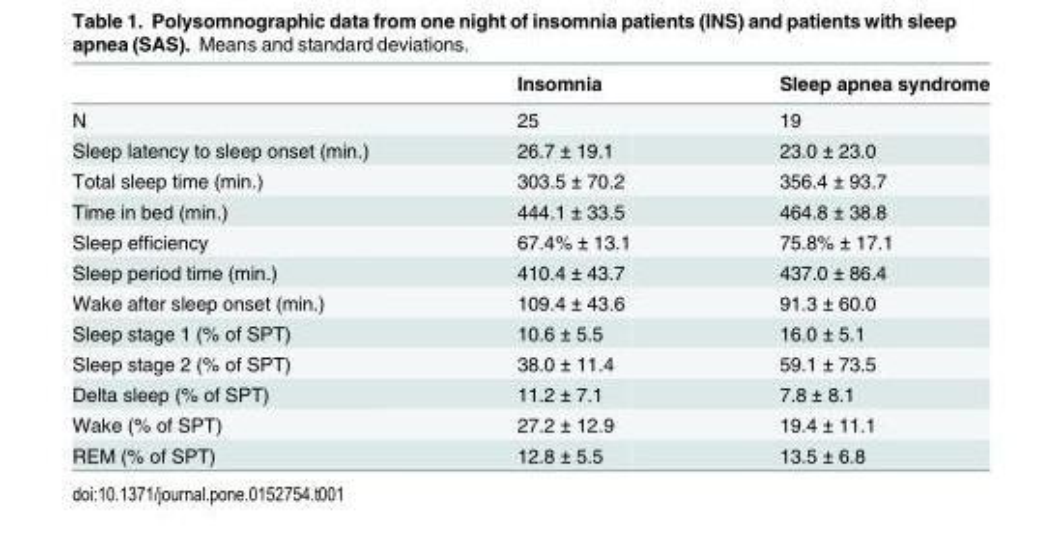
<table><thead><tr><td></td><td>Insomnia</td><td>Sleep apnea syndrome</td></tr></thead><tbody><tr><td>N</td><td>25</td><td>19</td></tr><tr><td>Sleep latency to sleep onset (min.)</td><td>26.7 ± 19.1</td><td>23.0 ± 23.0</td></tr><tr><td>Total sleep time (min.)</td><td>303.5 ± 70.2</td><td>356.4 ± 93.7</td></tr><tr><td>Time in bed (min.)</td><td>444.1 ± 33.5</td><td>464.8 ± 38.8</td></tr><tr><td>Sleep efficiency</td><td>67.4% ± 13.1</td><td>75.8% ± 17.1</td></tr><tr><td>Sleep period time (min.)</td><td>410.4 ± 43.7</td><td>437.0 ± 86.4</td></tr><tr><td>Wake after sleep onset (min.)</td><td>109.4 ± 43.6</td><td>91.3 ± 60.0</td></tr><tr><td>Sleep stage 1 (% of SPT)</td><td>10.6 ± 5.5</td><td>16.0 ± 5.1</td></tr><tr><td>Sleep stage 2 (% of SPT)</td><td>38.0 ± 11.4</td><td>59.1 ± 73.5</td></tr><tr><td>Delta sleep (% of SPT)</td><td>11.2 ± 7.1</td><td>7.8 ± 8.1</td></tr><tr><td>Wake (% of SPT)</td><td>27.2 ± 12.9</td><td>19.4 ± 11.1</td></tr><tr><td>REM (% of SPT)</td><td>12.8 ± 5.5</td><td>13.5 ± 6.8</td></tr></tbody></table>